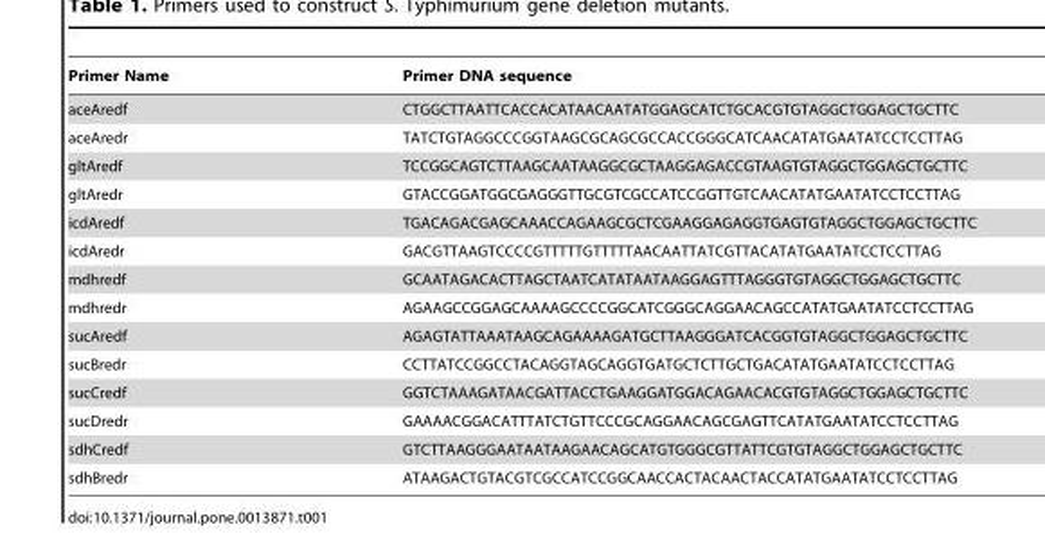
<table><thead><tr><td>Primer Name</td><td>Primer DNA sequence</td></tr></thead><tbody><tr><td>aceAredf</td><td>CTGGCTTAATTCACCACATAACAATATGGAGCATCTGCACGTGTAGGCTGGAGCTGCTTC</td></tr><tr><td>aceAredr</td><td>TATCTGTAGGCCCGGTAAGCGCAGCGCCACCGGGCATCAACATATGAATATCCTCCTTAG</td></tr><tr><td>gltAredf</td><td>TCCGGCAGTCTTAAGCAATAAGGCGCTAAGGAGACCGTAAGTGTAGGCTGGAGCTGCTTC</td></tr><tr><td>gltAredr</td><td>GTACCGGATGGCGAGGGTTGCGTCGCCATCCGGTTGTCAACATATGAATATCCTCCTTAG</td></tr><tr><td>icdAredf</td><td>TGACAGACGAGCAAACCAGAAGCGCTCGAAGGAGAGGTGAGTGTAGGCTGGAGCTGCTTC</td></tr><tr><td>icdAredr</td><td>GACGTTAAGTCCCCGTTTTTGTTTTTAACAATTATCGTTACATATGAATATCCTCCTTAG</td></tr><tr><td>mdhredf</td><td>GCAATAGACACTTAGCTAATCATATAATAAGGAGTTTAGGGTGTAGGCTGGAGCTGCTTC</td></tr><tr><td>mdhredr</td><td>AGAAGCCGGAGCAAAAGCCCCGGCATCGGGCAGGAACAGCCATATGAATATCCTCCTTAG</td></tr><tr><td>sucAredf</td><td>AGAGTATTAAATAAGCAGAAAAGATGCTTAAGGGATCACGGTGTAGGCTGGAGCTGCTTC</td></tr><tr><td>sucBredr</td><td>CCTTATCCGGCCTACAGGTAGCAGGTGATGCTCTTGCTGACATATGAATATCCTCCTTAG</td></tr><tr><td>sucCredf</td><td>GGTCTAAAGATAACGATTACCTGAAGGATGGACAGAACACGTGTAGGCTGGAGCTGCTTC</td></tr><tr><td>sucDredr</td><td>GAAAACGGACATTTATCTGTTCCCGCAGGAACAGCGAGTTCATATGAATATCCTCCTTAG</td></tr><tr><td>sdhCredf</td><td>GTCTTAAGGGAATAATAAGAACAGCATGTGGGCGTTATTCGTGTAGGCTGGAGCTGCTTC</td></tr><tr><td>sdhBredr</td><td>ATAAGACTGTACGTCGCCATCCGGCAACCACTACAACTACCATATGAATATCCTCCTTAG</td></tr></tbody></table>